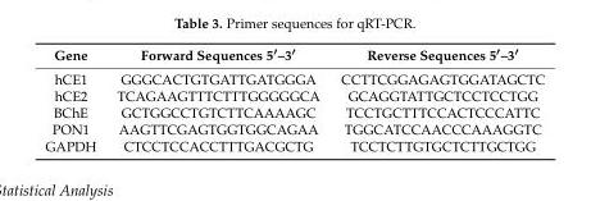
<table><thead><tr><td>Gene</td><td>Forward Sequences 5′–3′</td><td>Reverse Sequences 5′–3′</td></tr></thead><tbody><tr><td>hCE1</td><td>GGGCACTGTGATTGATGGGA</td><td>CCTTCGGAGAGTGGATAGCTC</td></tr><tr><td>hCE2</td><td>TCAGAAGTTTCTTTGGGGGCA</td><td>GCAGGTATTGCTCCTCCTGG</td></tr><tr><td>BChE</td><td>GCTGGCCTGTCTTCAAAAGC</td><td>TCCTGCTTTCCACTCCCATTC</td></tr><tr><td>PON1</td><td>AAGTTCGAGTGGTGGCAGAA</td><td>TGGCATCCAACCCAAAGGTC</td></tr><tr><td>GAPDH</td><td>CTCCTCCACCTTTGACGCTG</td><td>TCCTCTTGTGCTCTTGCTGG</td></tr></tbody></table>